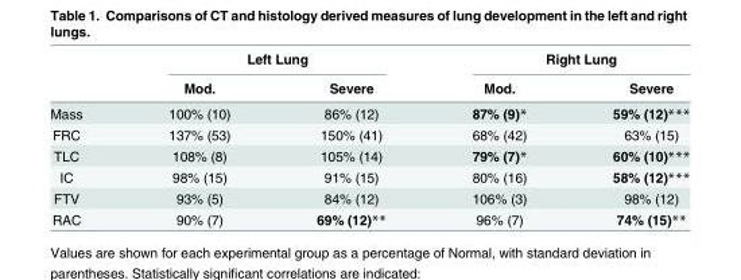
<table><thead><tr><td rowspan="2"></td><td colspan="2">Left Lung</td><td colspan="2">Right Lung</td></tr><tr><td>Mod.</td><td>Severe</td><td>Mod.</td><td>Severe</td></tr></thead><tbody><tr><td>Mass</td><td>100% (10)</td><td>86% (12)</td><td>87% (9)*</td><td>59% (12)***</td></tr><tr><td>FRC</td><td>137% (53)</td><td>150% (41)</td><td>68% (42)</td><td>63% (15)</td></tr><tr><td>TLC</td><td>108% (8)</td><td>105% (14)</td><td>79% (7)*</td><td>60% (10)***</td></tr><tr><td>IC</td><td>98% (15)</td><td>91% (15)</td><td>80% (16)</td><td>58% (12)***</td></tr><tr><td>FTV</td><td>93% (5)</td><td>84% (12)</td><td>106% (3)</td><td>98% (12)</td></tr><tr><td>RAC</td><td>90% (7)</td><td>69% (12)**</td><td>96% (7)</td><td>74% (15)**</td></tr></tbody></table>